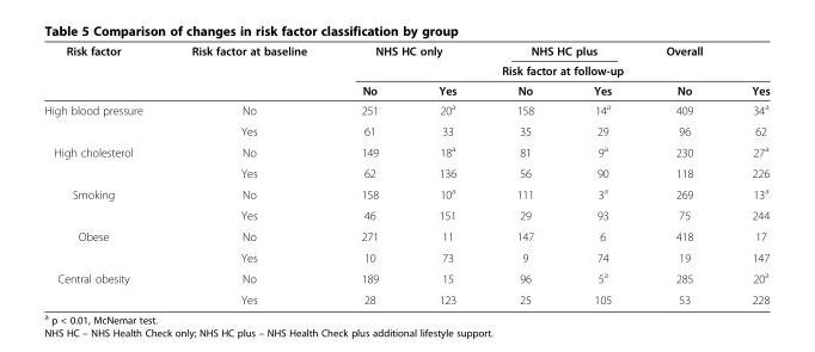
<table><thead><tr><td rowspan="3">Risk factor</td><td rowspan="3">Risk factor at baseline</td><td colspan="2">NHS HC only</td><td colspan="2">NHS HC plus</td><td>Overall</td><td></td></tr><tr><td colspan="6">Risk factor at follow-up</td></tr><tr><td>No</td><td>Yes</td><td>No</td><td>Yes</td><td>No</td><td>Yes</td></tr></thead><tbody><tr><td rowspan="2">High blood pressure</td><td>No</td><td>251</td><td>20<sup>a</sup></td><td>158</td><td>14<sup>a</sup></td><td>409</td><td>34<sup>a</sup></td></tr><tr><td>Yes</td><td>61</td><td>33</td><td>35</td><td>29</td><td>96</td><td>62</td></tr><tr><td rowspan="2">High cholesterol</td><td>No</td><td>149</td><td>18<sup>a</sup></td><td>81</td><td>9<sup>a</sup></td><td>230</td><td>27<sup>a</sup></td></tr><tr><td>Yes</td><td>62</td><td>136</td><td>56</td><td>90</td><td>118</td><td>226</td></tr><tr><td rowspan="2">Smoking</td><td>No</td><td>158</td><td>10<sup>a</sup></td><td>111</td><td>3<sup>a</sup></td><td>269</td><td>13<sup>a</sup></td></tr><tr><td>Yes</td><td>46</td><td>151</td><td>29</td><td>93</td><td>75</td><td>244</td></tr><tr><td rowspan="2">Obese</td><td>No</td><td>271</td><td>11</td><td>147</td><td>6</td><td>418</td><td>17</td></tr><tr><td>Yes</td><td>10</td><td>73</td><td>9</td><td>74</td><td>19</td><td>147</td></tr><tr><td rowspan="2">Central obesity</td><td>No</td><td>189</td><td>15</td><td>96</td><td>5<sup>a</sup></td><td>285</td><td>20<sup>a</sup></td></tr><tr><td>Yes</td><td>28</td><td>123</td><td>25</td><td>105</td><td>53</td><td>228</td></tr></tbody></table>